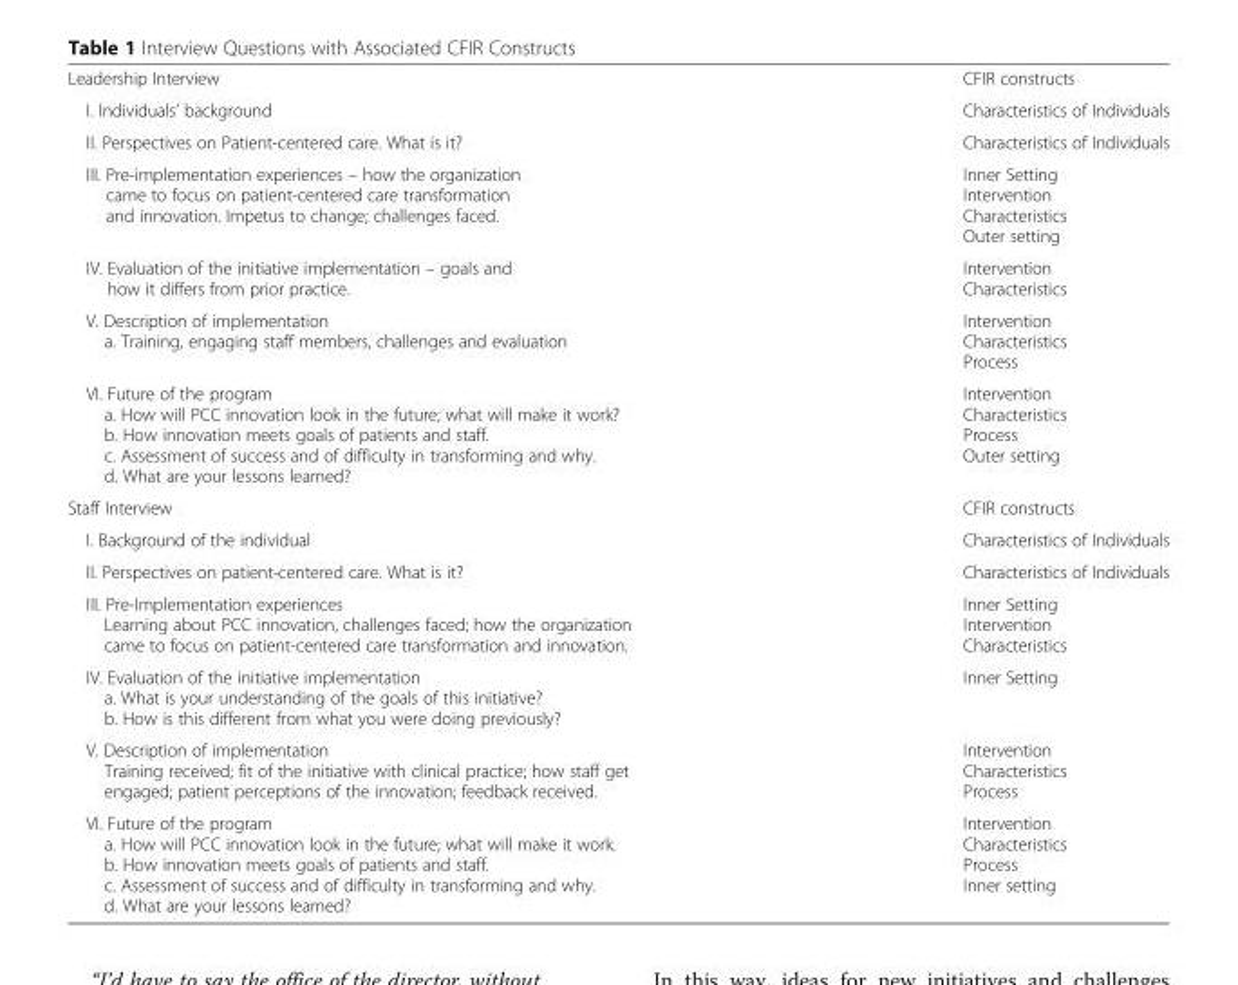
<table><tbody><tr><td>Leadership Interview</td><td>CFIR constructs</td></tr><tr><td>I. Individuals’ background</td><td>Characteristics of Individuals</td></tr><tr><td>II. Perspectives on Patient-centered care. What is it?</td><td>Characteristics of Individuals</td></tr><tr><td>III. Pre-implementation experiences – how the organization came to focus on patient-centered care transformation and innovation. Impetus to change; challenges faced.</td><td>Inner Setting Intervention Characteristics Outer setting</td></tr><tr><td>IV. Evaluation of the initiative implementation – goals and how it differs from prior practice.</td><td>Intervention Characteristics</td></tr><tr><td>V. Description of implementation a. Training, engaging staff members, challenges and evaluation</td><td>Intervention Characteristics Process</td></tr><tr><td>VI. Future of the program a. How will PCC innovation look in the future; what will make it work? b. How innovation meets goals of patients and staff. c. Assessment of success and of difficulty in transforming and why. d. What are your lessons learned?</td><td>Intervention Characteristics Process Outer setting</td></tr><tr><td>Staff Interview</td><td>CFIR constructs</td></tr><tr><td>I. Background of the individual</td><td>Characteristics of Individuals</td></tr><tr><td>II. Perspectives on patient-centered care. What is it?</td><td>Characteristics of Individuals</td></tr><tr><td>III. Pre-Implementation experiences Learning about PCC innovation, challenges faced; how the organization came to focus on patient-centered care transformation and innovation.</td><td>Inner Setting Intervention Characteristics</td></tr><tr><td>IV. Evaluation of the initiative implementation a. What is your understanding of the goals of this initiative? b. How is this different from what you were doing previously?</td><td>Inner Setting</td></tr><tr><td>V. Description of implementation Training received; fit of the initiative with clinical practice; how staff get engaged; patient perceptions of the innovation; feedback received.</td><td>Intervention Characteristics Process</td></tr><tr><td>VI. Future of the program a. How will PCC innovation look in the future; what will make it work. b. How innovation meets goals of patients and staff. c. Assessment of success and of difficulty in transforming and why. d. What are your lessons learned?</td><td>Intervention Characteristics Process Inner setting</td></tr></tbody></table>